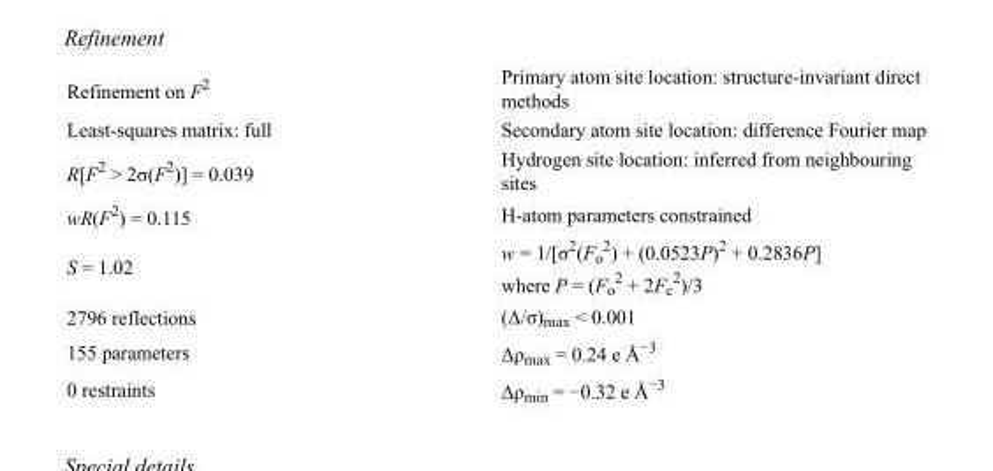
<table><tbody><tr><td>Refinement on F<sup>2</sup></td><td>Primary atom site location: structure-invariant direct methods</td></tr><tr><td>Least-squares matrix: full</td><td>Secondary atom site location: difference Fourier map</td></tr><tr><td>R[F<sup>2</sup> &gt; 2σ(F<sup>2</sup>)] = 0.039</td><td>Hydrogen site location: inferred from neighbouring sites</td></tr><tr><td>wR(F<sup>2</sup>) = 0.115</td><td>H-atom parameters constrained</td></tr><tr><td>S = 1.02</td><td>w = 1/[σ<sup>2</sup>(F<sub>o</sub> <sup>2</sup>) + (0.0523P)<sup>2</sup> + 0.2836P] where P = (F<sub>o</sub> <sup>2</sup> + 2F<sub>c</sub> <sup>2</sup>)/3</td></tr><tr><td>2796 reflections</td><td>(Δ/σ)<sub>max</sub> &lt; 0.001</td></tr><tr><td>155 parameters</td><td>Δρ<sub>max</sub> = 0.24 e Å<sup>−3</sup></td></tr><tr><td>0 restraints</td><td>Δρ<sub>min</sub> = −0.32 e Å<sup>−3</sup></td></tr></tbody></table>